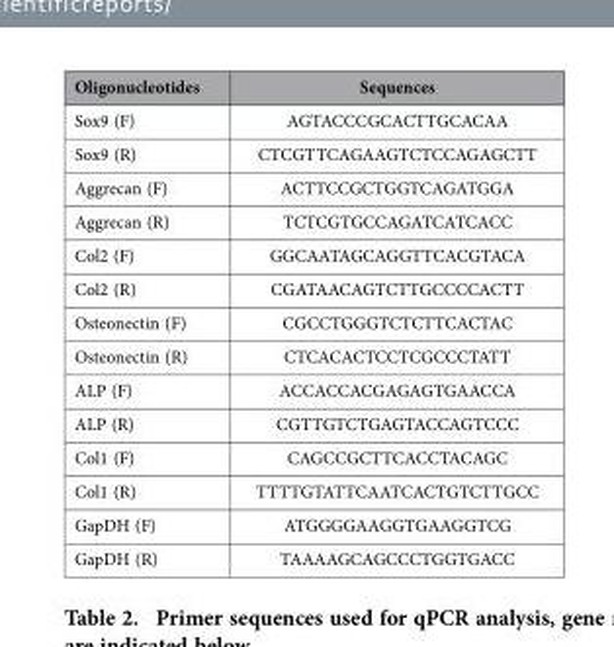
<table><thead><tr><td>Oligonucleotides</td><td>Sequences</td></tr></thead><tbody><tr><td>Sox9 (F)</td><td>AGTACCCGCACTTGCACAA</td></tr><tr><td>Sox9 (R)</td><td>CTCGTTCAGAAGTCTCCAGAGCTT</td></tr><tr><td>Aggrecan (F)</td><td>ACTTCCGCTGGTCAGATGGA</td></tr><tr><td>Aggrecan (R)</td><td>TCTCGTGCCAGATCATCACC</td></tr><tr><td>Col2 (F)</td><td>GGCAATAGCAGGTTCACGTACA</td></tr><tr><td>Col2 (R)</td><td>CGATAACAGTCTTGCCCCACTT</td></tr><tr><td>Osteonectin (F)</td><td>CGCCTGGGTCTCTTCACTAC</td></tr><tr><td>Osteonectin (R)</td><td>CTCACACTCCTCGCCCTATT</td></tr><tr><td>ALP (F)</td><td>ACCACCACGAGAGTGAACCA</td></tr><tr><td>ALP (R)</td><td>CGTTGTCTGAGTACCAGTCCC</td></tr><tr><td>Col1 (F)</td><td>CAGCCGCTTCACCTACAGC</td></tr><tr><td>Col1 (R)</td><td>TTTTGTATTCAATCACTGTCTTGCC</td></tr><tr><td>GapDH (F)</td><td>ATGGGGAAGGTGAAGGTCG</td></tr><tr><td>GapDH (R)</td><td>TAAAAGCAGCCCTGGTGACC</td></tr></tbody></table>